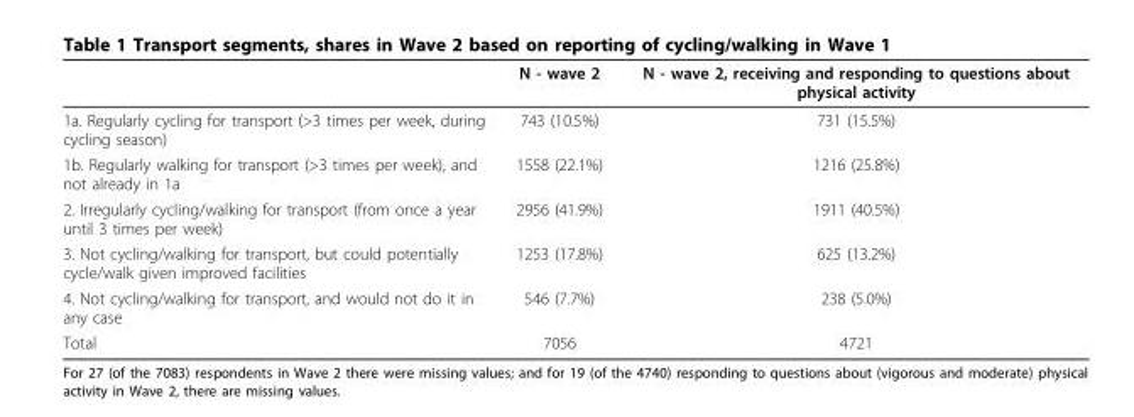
<table><thead><tr><td></td><td>N - wave 2</td><td>N - wave 2, receiving and responding to questions about physical activity</td></tr></thead><tbody><tr><td>1a. Regularly cycling for transport (&gt;3 times per week, during cycling season)</td><td>743 (10.5%)</td><td>731 (15.5%)</td></tr><tr><td>1b. Regularly walking for transport (&gt;3 times per week), and not already in 1a</td><td>1558 (22.1%)</td><td>1216 (25.8%)</td></tr><tr><td>2. Irregularly cycling/walking for transport (from once a year until 3 times per week)</td><td>2956 (41.9%)</td><td>1911 (40.5%)</td></tr><tr><td>3. Not cycling/walking for transport, but could potentially cycle/walk given improved facilities</td><td>1253 (17.8%)</td><td>625 (13.2%)</td></tr><tr><td>4. Not cycling/walking for transport, and would not do it in any case</td><td>546 (7.7%)</td><td>238 (5.0%)</td></tr><tr><td>Total</td><td>7056</td><td>4721</td></tr></tbody></table>